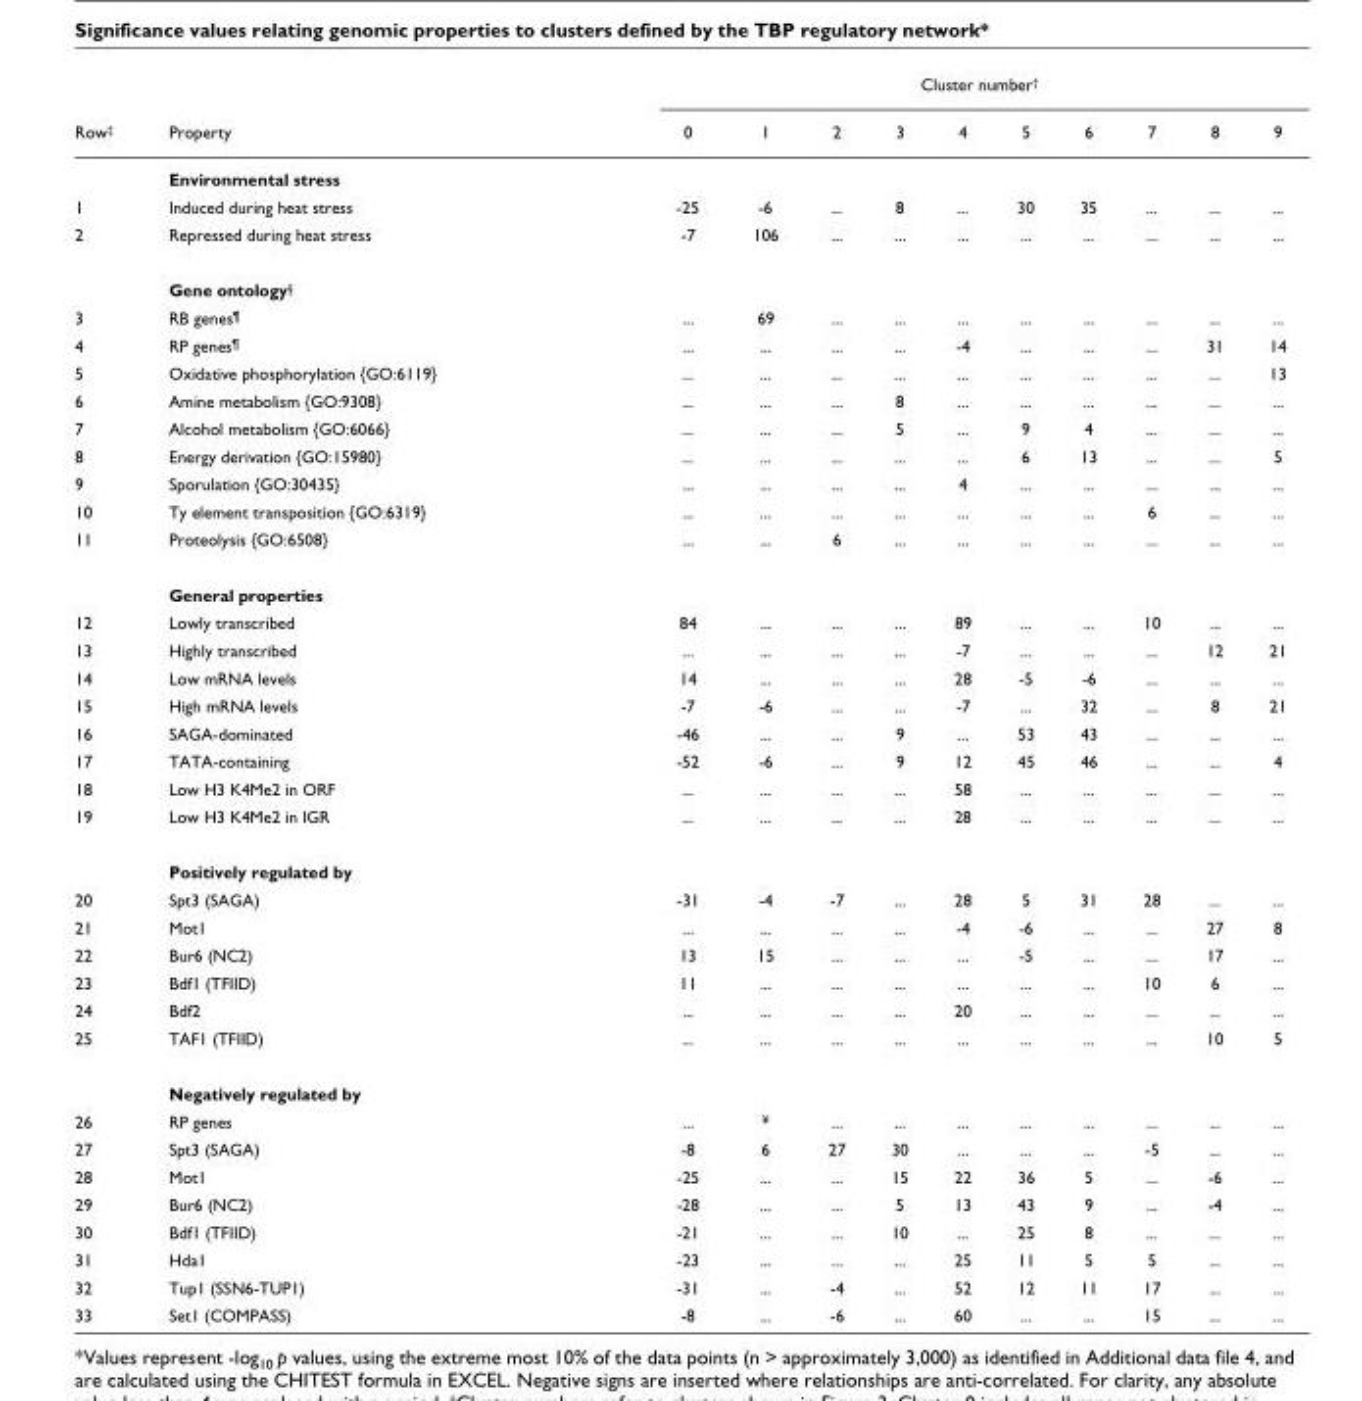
<table><thead><tr><td rowspan="2">Row‡</td><td rowspan="2">Property</td><td colspan="10">Cluster number†</td></tr><tr><td>0</td><td>1</td><td>2</td><td>3</td><td>4</td><td>5</td><td>6</td><td>7</td><td>8</td><td>9</td></tr></thead><tbody><tr><td></td><td>Environmental stress</td><td></td><td></td><td></td><td></td><td></td><td></td><td></td><td></td><td></td><td></td></tr><tr><td>1</td><td>Induced during heat stress</td><td>-25</td><td>-6</td><td>...</td><td>8</td><td>...</td><td>30</td><td>35</td><td>...</td><td>...</td><td>...</td></tr><tr><td rowspan="2">2</td><td>Repressed during heat stress</td><td>-7</td><td>106</td><td>...</td><td>...</td><td>...</td><td>...</td><td>...</td><td>...</td><td>...</td><td>...</td></tr><tr><td>Gene ontology§</td><td></td><td></td><td></td><td></td><td></td><td></td><td></td><td></td><td></td><td></td></tr><tr><td>3</td><td>RB genes¶</td><td>...</td><td>69</td><td>...</td><td>...</td><td>...</td><td>...</td><td>...</td><td>...</td><td>...</td><td>...</td></tr><tr><td>4</td><td>RP genes¶</td><td>...</td><td>...</td><td>...</td><td>...</td><td>-4</td><td>...</td><td>...</td><td>...</td><td>31</td><td>14</td></tr><tr><td>5</td><td>Oxidative phosphorylation {GO:6119}</td><td>...</td><td>...</td><td>...</td><td>...</td><td>...</td><td>...</td><td>...</td><td>...</td><td>...</td><td>13</td></tr><tr><td>6</td><td>Amine metabolism {GO:9308}</td><td>...</td><td>...</td><td>...</td><td>8</td><td>...</td><td>...</td><td>...</td><td>...</td><td>...</td><td>...</td></tr><tr><td>7</td><td>Alcohol metabolism {GO:6066}</td><td>...</td><td>...</td><td>...</td><td>5</td><td>...</td><td>9</td><td>4</td><td>...</td><td>...</td><td>...</td></tr><tr><td>8</td><td>Energy derivation {GO:15980}</td><td>...</td><td>...</td><td>...</td><td>...</td><td>...</td><td>6</td><td>13</td><td>...</td><td>...</td><td>5</td></tr><tr><td>9</td><td>Sporulation {GO:30435}</td><td>...</td><td>...</td><td>...</td><td>...</td><td>4</td><td>...</td><td>...</td><td>...</td><td>...</td><td>...</td></tr><tr><td>10</td><td>Ty element transposition {GO:6319}</td><td>...</td><td>...</td><td>...</td><td>...</td><td>...</td><td>...</td><td>...</td><td>6</td><td>...</td><td>...</td></tr><tr><td rowspan="2">11</td><td>Proteolysis {GO:6508}</td><td>...</td><td>...</td><td>6</td><td>...</td><td>...</td><td>...</td><td>...</td><td>...</td><td>...</td><td>...</td></tr><tr><td>General properties</td><td></td><td></td><td></td><td></td><td></td><td></td><td></td><td></td><td></td><td></td></tr><tr><td>12</td><td>Lowly transcribed</td><td>84</td><td>...</td><td>...</td><td>...</td><td>89</td><td>...</td><td>...</td><td>10</td><td>...</td><td>...</td></tr><tr><td>13</td><td>Highly transcribed</td><td>...</td><td>...</td><td>...</td><td>...</td><td>-7</td><td>...</td><td>...</td><td>...</td><td>12</td><td>21</td></tr><tr><td>14</td><td>Low mRNA levels</td><td>14</td><td>...</td><td>...</td><td>...</td><td>28</td><td>-5</td><td>-6</td><td>...</td><td>...</td><td>...</td></tr><tr><td>15</td><td>High mRNA levels</td><td>-7</td><td>-6</td><td>...</td><td>...</td><td>-7</td><td>...</td><td>32</td><td>...</td><td>8</td><td>21</td></tr><tr><td>16</td><td>SAGA-dominated</td><td>-46</td><td>...</td><td>...</td><td>9</td><td>...</td><td>53</td><td>43</td><td>...</td><td>...</td><td>...</td></tr><tr><td>17</td><td>TATA-containing</td><td>-52</td><td>-6</td><td>...</td><td>9</td><td>12</td><td>45</td><td>46</td><td>...</td><td>...</td><td>4</td></tr><tr><td>18</td><td>Low H3 K4Me2 in ORF</td><td>...</td><td>...</td><td>...</td><td>...</td><td>58</td><td>...</td><td>...</td><td>...</td><td>...</td><td>...</td></tr><tr><td rowspan="2">19</td><td>Low H3 K4Me2 in IGR</td><td>...</td><td>...</td><td>...</td><td>...</td><td>28</td><td>...</td><td>...</td><td>...</td><td>...</td><td>...</td></tr><tr><td>Positively regulated by</td><td></td><td></td><td></td><td></td><td></td><td></td><td></td><td></td><td></td><td></td></tr><tr><td>20</td><td>Spt3 (SAGA)</td><td>-31</td><td>-4</td><td>-7</td><td>...</td><td>28</td><td>5</td><td>31</td><td>28</td><td>...</td><td>...</td></tr><tr><td>21</td><td>Mot1</td><td>...</td><td>...</td><td>...</td><td>...</td><td>-4</td><td>-6</td><td>...</td><td>...</td><td>27</td><td>8</td></tr><tr><td>22</td><td>Bur6 (NC2)</td><td>13</td><td>15</td><td>...</td><td>...</td><td>...</td><td>-5</td><td>...</td><td>...</td><td>17</td><td>...</td></tr><tr><td>23</td><td>Bdf1 (TFIID)</td><td>11</td><td>...</td><td>...</td><td>...</td><td>...</td><td>...</td><td>...</td><td>10</td><td>6</td><td>...</td></tr><tr><td>24</td><td>Bdf2</td><td>...</td><td>...</td><td>...</td><td>...</td><td>20</td><td>...</td><td>...</td><td>...</td><td>...</td><td>...</td></tr><tr><td rowspan="2">25</td><td>TAF1 (TFIID)</td><td>...</td><td>...</td><td>...</td><td>...</td><td>...</td><td>...</td><td>...</td><td>...</td><td>10</td><td>5</td></tr><tr><td>Negatively regulated by</td><td></td><td></td><td></td><td></td><td></td><td></td><td></td><td></td><td></td><td></td></tr><tr><td>26</td><td>RP genes</td><td>...</td><td>¥</td><td>...</td><td>...</td><td>...</td><td>...</td><td>...</td><td>...</td><td>...</td><td>...</td></tr><tr><td>27</td><td>Spt3 (SAGA)</td><td>-8</td><td>6</td><td>27</td><td>30</td><td>...</td><td>...</td><td>...</td><td>-5</td><td>...</td><td>...</td></tr><tr><td>28</td><td>Mot1</td><td>-25</td><td>...</td><td>...</td><td>15</td><td>22</td><td>36</td><td>5</td><td>...</td><td>-6</td><td>...</td></tr><tr><td>29</td><td>Bur6 (NC2)</td><td>-28</td><td>...</td><td>...</td><td>5</td><td>13</td><td>43</td><td>9</td><td>...</td><td>-4</td><td>...</td></tr><tr><td>30</td><td>Bdf1 (TFIID)</td><td>-21</td><td>...</td><td>...</td><td>10</td><td>...</td><td>25</td><td>8</td><td>...</td><td>...</td><td>...</td></tr><tr><td>31</td><td>Hda1</td><td>-23</td><td>...</td><td>...</td><td>...</td><td>25</td><td>11</td><td>5</td><td>5</td><td>...</td><td>...</td></tr><tr><td>32</td><td>Tup1 (SSN6-TUP1)</td><td>-31</td><td>...</td><td>-4</td><td>...</td><td>52</td><td>12</td><td>11</td><td>17</td><td>...</td><td>...</td></tr><tr><td>33</td><td>Set1 (COMPASS)</td><td>-8</td><td>...</td><td>-6</td><td>...</td><td>60</td><td>...</td><td>...</td><td>15</td><td>...</td><td>...</td></tr></tbody></table>